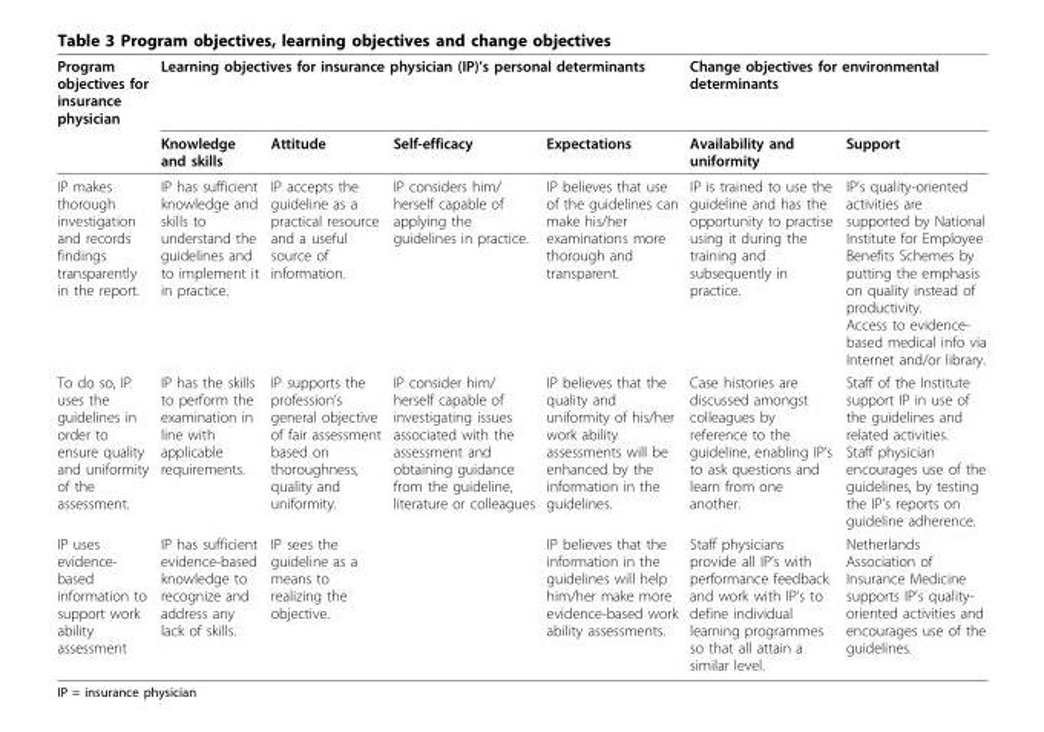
<table><thead><tr><td rowspan="2">Program objectives for insurance physician</td><td colspan="4">Learning objectives for insurance physician (IP)’s personal determinants</td><td colspan="2">Change objectives for environmental determinants</td></tr><tr><td>Knowledge and skills</td><td>Attitude</td><td>Self-efficacy</td><td>Expectations</td><td>Availability and uniformity</td><td>Support</td></tr></thead><tbody><tr><td>IP makes thorough investigation and records findings transparently in the report.</td><td>IP has sufficient knowledge and skills to understand the guidelines and to implement it in practice.</td><td>IP accepts the guideline as a practical resource and a useful source of information.</td><td>IP considers him/ herself capable of applying the guidelines in practice.</td><td>IP believes that use of the guidelines can make his/her examinations more thorough and transparent.</td><td>IP is trained to use the guideline and has the opportunity to practise using it during the training and subsequently in practice.</td><td>IP’s quality-oriented activities are supported by National Institute for Employee Benefits Schemes by putting the emphasis on quality instead of productivity. Access to evidence- based medical info via Internet and/or library.</td></tr><tr><td>To do so, IP uses the guidelines in order to ensure quality and uniformity of the assessment.</td><td>IP has the skills to perform the examination in line with applicable requirements.</td><td>IP supports the profession’s general objective of fair assessment based on thoroughness, quality and uniformity.</td><td>IP consider him/ herself capable of investigating issues associated with the assessment and obtaining guidance from the guideline, literature or colleagues</td><td>IP believes that the quality and uniformity of his/her work ability assessments will be enhanced by the information in the guidelines.</td><td>Case histories are discussed amongst colleagues by reference to the guideline, enabling IP’s to ask questions and learn from one another.</td><td>Staff of the Institute support IP in use of the guidelines and related activities. Staff physician encourages use of the guidelines, by testing the IP’s reports on guideline adherence.</td></tr><tr><td>IP uses evidence- based information to support work ability assessment</td><td>IP has sufficient evidence-based knowledge to recognize and address any lack of skills.</td><td>IP sees the guideline as a means to realizing the objective.</td><td></td><td>IP believes that the information in the guidelines will help him/her make more evidence-based work ability assessments.</td><td>Staff physicians provide all IP’s with performance feedback and work with IP’s to define individual learning programmes so that all attain a similar level.</td><td>Netherlands Association of Insurance Medicine supports IP’s quality- oriented activities and encourages use of the guidelines.</td></tr></tbody></table>